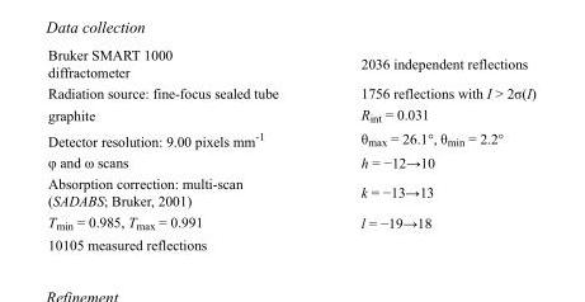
<table><tbody><tr><td>Bruker SMART 1000 diffractometer</td><td>2036 independent reflections</td></tr><tr><td>Radiation source: fine-focus sealed tube</td><td>1756 reflections with I &gt; 2σ(I)</td></tr><tr><td>graphite</td><td>R<sub>int</sub> = 0.031</td></tr><tr><td>Detector resolution: 9.00 pixels mm<sup>-1</sup></td><td>θ<sub>max</sub> = 26.1°, θ<sub>min</sub> = 2.2°</td></tr><tr><td>φ and ω scans</td><td>h = −12→10</td></tr><tr><td>Absorption correction: multi-scan (SADABS; Bruker, 2001)</td><td>k = −13→13</td></tr><tr><td>T<sub>min</sub> = 0.985, T<sub>max</sub> = 0.991</td><td>l = −19→18</td></tr><tr><td>10105 measured reflections</td><td></td></tr></tbody></table>